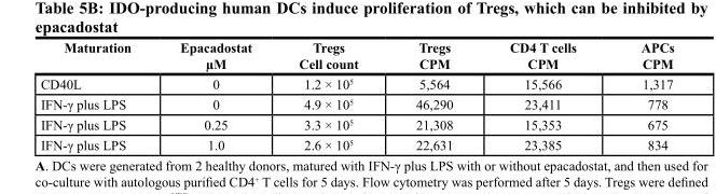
<table><thead><tr><td>Maturation</td><td>Epacadostat µM</td><td>Tregs Cell count</td><td>Tregs CPM</td><td>CD4 T cells CPM</td><td>APCs CPM</td></tr></thead><tbody><tr><td>CD40L</td><td>0</td><td>1.2 × 10<sup>5</sup></td><td>5,564</td><td>15,566</td><td>1,317</td></tr><tr><td>IFN-γ plus LPS</td><td>0</td><td>4.9 × 10<sup>5</sup></td><td>46,290</td><td>23,411</td><td>778</td></tr><tr><td>IFN-γ plus LPS</td><td>0.25</td><td>3.3 × 10<sup>5</sup></td><td>21,308</td><td>15,353</td><td>675</td></tr><tr><td>IFN-γ plus LPS</td><td>1.0</td><td>2.6 × 10<sup>5</sup></td><td>22,631</td><td>23,385</td><td>834</td></tr></tbody></table>